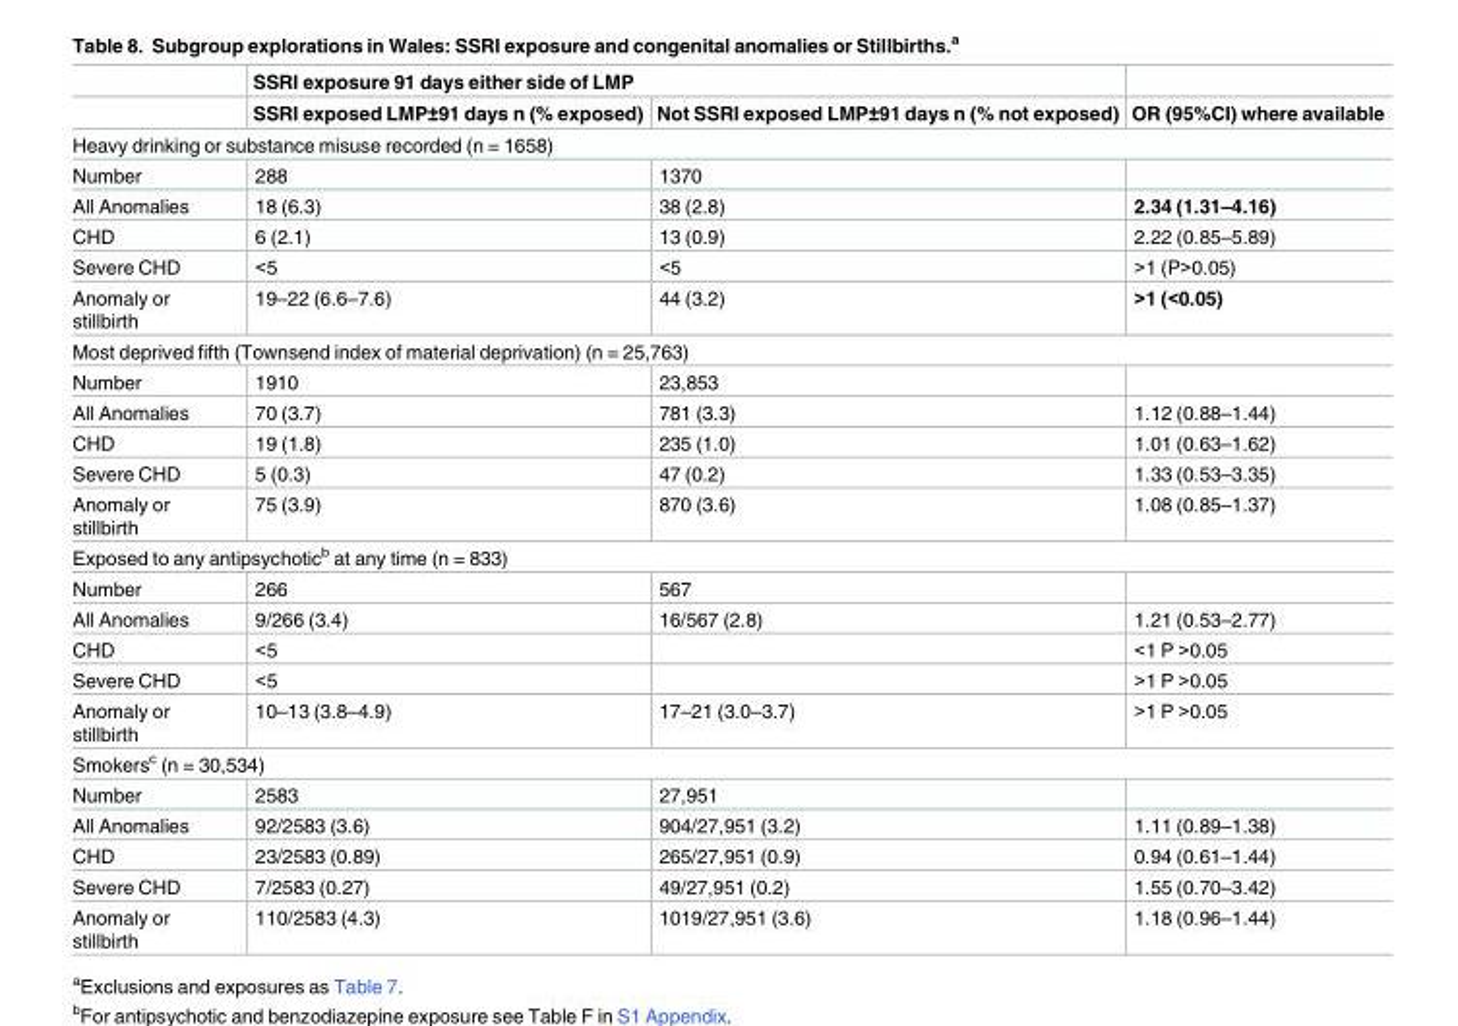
<table><thead><tr><td rowspan="2"></td><td colspan="2">SSRI exposure 91 days either side of LMP</td><td rowspan="2">OR (95%CI) where available</td></tr><tr><td>SSRI exposed LMP±91 days n (% exposed)</td><td>Not SSRI exposed LMP±91 days n (% not exposed)</td></tr></thead><tbody><tr><td colspan="4">Heavy drinking or substance misuse recorded (n = 1658)</td></tr><tr><td>Number</td><td>288</td><td>1370</td><td></td></tr><tr><td>All Anomalies</td><td>18 (6.3)</td><td>38 (2.8)</td><td>2.34 (1.31–4.16)</td></tr><tr><td>CHD</td><td>6 (2.1)</td><td>13 (0.9)</td><td>2.22 (0.85–5.89)</td></tr><tr><td>Severe CHD</td><td>&lt;5</td><td>&lt;5</td><td>&gt;1 (P&gt;0.05)</td></tr><tr><td>Anomaly or stillbirth</td><td>19–22 (6.6–7.6)</td><td>44 (3.2)</td><td>&gt;1 (&lt;0.05)</td></tr><tr><td colspan="4">Most deprived fifth (Townsend index of material deprivation) (n = 25,763)</td></tr><tr><td>Number</td><td>1910</td><td>23,853</td><td></td></tr><tr><td>All Anomalies</td><td>70 (3.7)</td><td>781 (3.3)</td><td>1.12 (0.88–1.44)</td></tr><tr><td>CHD</td><td>19 (1.8)</td><td>235 (1.0)</td><td>1.01 (0.63–1.62)</td></tr><tr><td>Severe CHD</td><td>5 (0.3)</td><td>47 (0.2)</td><td>1.33 (0.53–3.35)</td></tr><tr><td>Anomaly or stillbirth</td><td>75 (3.9)</td><td>870 (3.6)</td><td>1.08 (0.85–1.37)</td></tr><tr><td colspan="4">Exposed to any antipsychotic<sup>b</sup> at any time (n = 833)</td></tr><tr><td>Number</td><td>266</td><td>567</td><td></td></tr><tr><td>All Anomalies</td><td>9/266 (3.4)</td><td>16/567 (2.8)</td><td>1.21 (0.53–2.77)</td></tr><tr><td>CHD</td><td>&lt;5</td><td></td><td>&lt;1 P &gt;0.05</td></tr><tr><td>Severe CHD</td><td>&lt;5</td><td></td><td>&gt;1 P &gt;0.05</td></tr><tr><td>Anomaly or stillbirth</td><td>10–13 (3.8–4.9)</td><td>17–21 (3.0–3.7)</td><td>&gt;1 P &gt;0.05</td></tr><tr><td colspan="4">Smokers<sup>c</sup> (n = 30,534)</td></tr><tr><td>Number</td><td>2583</td><td>27,951</td><td></td></tr><tr><td>All Anomalies</td><td>92/2583 (3.6)</td><td>904/27,951 (3.2)</td><td>1.11 (0.89–1.38)</td></tr><tr><td>CHD</td><td>23/2583 (0.89)</td><td>265/27,951 (0.9)</td><td>0.94 (0.61–1.44)</td></tr><tr><td>Severe CHD</td><td>7/2583 (0.27)</td><td>49/27,951 (0.2)</td><td>1.55 (0.70–3.42)</td></tr><tr><td>Anomaly or stillbirth</td><td>110/2583 (4.3)</td><td>1019/27,951 (3.6)</td><td>1.18 (0.96–1.44)</td></tr></tbody></table>